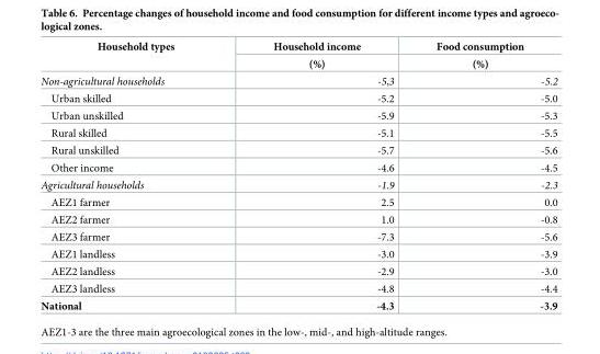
<table><thead><tr><td rowspan="2">Household types</td><td rowspan="2">Household income (%)</td><td rowspan="2">Food consumption (%)</td></tr><tr></tr></thead><tbody><tr><td>Non-agricultural households</td><td>-5,3</td><td>-5.2</td></tr><tr><td>Urban skilled</td><td>-5.2</td><td>-5.0</td></tr><tr><td>Urban unskilled</td><td>-5.9</td><td>-5.3</td></tr><tr><td>Rural skilled</td><td>-5.1</td><td>-5.5</td></tr><tr><td>Rural unskilled</td><td>-5.7</td><td>-5.6</td></tr><tr><td>Other income</td><td>-4.6</td><td>-4.5</td></tr><tr><td>Agricultural households</td><td>-1.9</td><td>-2.3</td></tr><tr><td>AEZ1 farmer</td><td>2.5</td><td>0.0</td></tr><tr><td>AEZ2 farmer</td><td>1.0</td><td>-0.8</td></tr><tr><td>AEZ3 farmer</td><td>-7.3</td><td>-5.6</td></tr><tr><td>AEZ1 landless</td><td>-3.0</td><td>-3.9</td></tr><tr><td>AEZ2 landless</td><td>-2.9</td><td>-3.0</td></tr><tr><td>AEZ3 landless</td><td>-4.8</td><td>-4.4</td></tr><tr><td>National</td><td>-4.3</td><td>-3.9</td></tr></tbody></table>